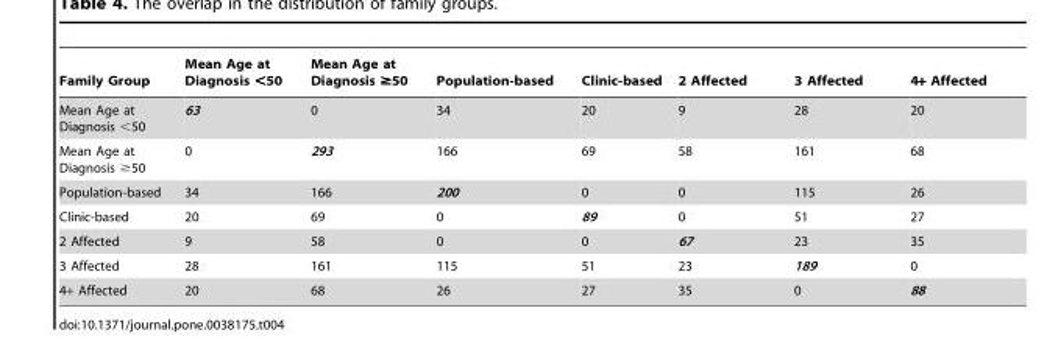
<table><thead><tr><td>Family Group</td><td>Mean Age at Diagnosis &lt;50</td><td>Mean Age at Diagnosis ≥50</td><td>Population-based</td><td>Clinic-based</td><td>2 Affected</td><td>3 Affected</td><td>4+ Affected</td></tr></thead><tbody><tr><td>Mean Age at Diagnosis &lt;50</td><td>63</td><td>0</td><td>34</td><td>20</td><td>9</td><td>28</td><td>20</td></tr><tr><td>Mean Age at Diagnosis ≥50</td><td>0</td><td>293</td><td>166</td><td>69</td><td>58</td><td>161</td><td>68</td></tr><tr><td>Population-based</td><td>34</td><td>166</td><td>200</td><td>0</td><td>0</td><td>115</td><td>26</td></tr><tr><td>Clinic-based</td><td>20</td><td>69</td><td>0</td><td>89</td><td>0</td><td>51</td><td>27</td></tr><tr><td>2 Affected</td><td>9</td><td>58</td><td>0</td><td>0</td><td>67</td><td>23</td><td>35</td></tr><tr><td>3 Affected</td><td>28</td><td>161</td><td>115</td><td>51</td><td>23</td><td>189</td><td>0</td></tr><tr><td>4+ Affected</td><td>20</td><td>68</td><td>26</td><td>27</td><td>35</td><td>0</td><td>88</td></tr></tbody></table>